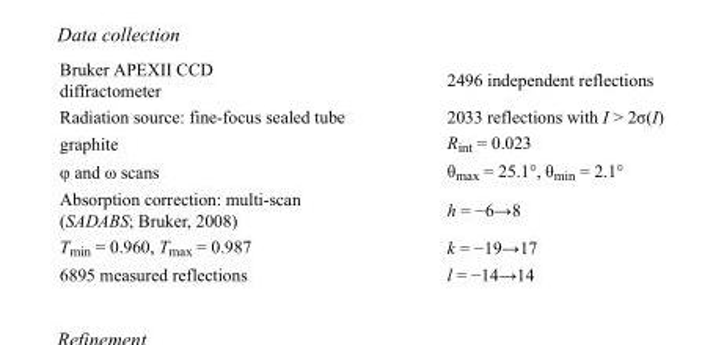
<table><tbody><tr><td>Bruker APEXII CCD diffractometer</td><td>2496 independent reflections</td></tr><tr><td>Radiation source: fine-focus sealed tube</td><td>2033 reflections with I &gt; 2σ(I)</td></tr><tr><td>graphite</td><td>R<sub>int</sub> = 0.023</td></tr><tr><td>φ and ω scans</td><td>θ<sub>max</sub> = 25.1°, θ<sub>min</sub> = 2.1°</td></tr><tr><td>Absorption correction: multi-scan (SADABS; Bruker, 2008)</td><td>h = −6→8</td></tr><tr><td>T<sub>min</sub> = 0.960, T<sub>max</sub> = 0.987</td><td>k = −19→17</td></tr><tr><td>6895 measured reflections</td><td>l = −14→14</td></tr></tbody></table>